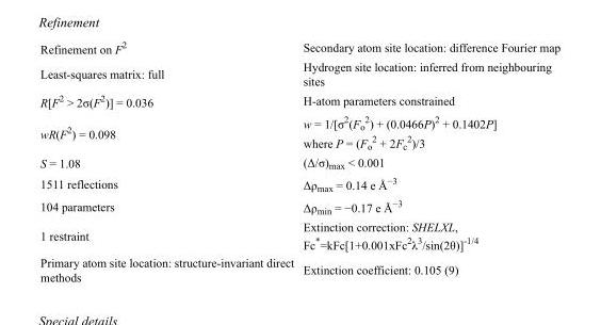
<table><tbody><tr><td>Refinement on F<sup>2</sup></td><td>Secondary atom site location: difference Fourier map</td></tr><tr><td>Least-squares matrix: full</td><td>Hydrogen site location: inferred from neighbouring sites</td></tr><tr><td>R[F<sup>2</sup> &gt; 2σ(F<sup>2</sup>)] = 0.036</td><td>H-atom parameters constrained</td></tr><tr><td>wR(F<sup>2</sup>) = 0.098</td><td>w = 1/[σ<sup>2</sup>(F<sub>o</sub> <sup>2</sup>) + (0.0466P)<sup>2</sup> + 0.1402P] where P = (F<sub>o</sub> <sup>2</sup> + 2F<sub>c</sub> <sup>2</sup>)/3</td></tr><tr><td>S = 1.08</td><td>(Δ/σ)<sub>max</sub> &lt; 0.001</td></tr><tr><td>1511 reflections</td><td>Δρ<sub>max</sub> = 0.14 e Å<sup>−3</sup></td></tr><tr><td>104 parameters</td><td>Δρmin = −0.17 e Å−3</td></tr><tr><td>1 restraint</td><td>Extinction correction: SHELXL, Fc*=kFc[1+0.001xFc<sup>2</sup>λ<sup>3</sup>/sin(2θ)]<sup>-1/4</sup></td></tr><tr><td>Primary atom site location: structure-invariant direct methods</td><td>Extinction coefficient: 0.105 (9)</td></tr></tbody></table>